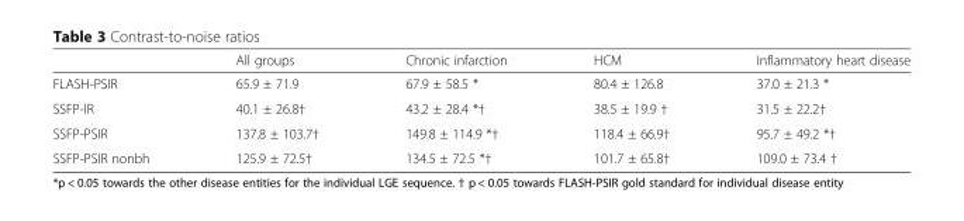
<table><thead><tr><td></td><td>All groups</td><td>Chronic infarction</td><td>HCM</td><td>Inflammatory heart disease</td></tr></thead><tbody><tr><td>FLASH-PSIR</td><td>65.9 ± 71.9</td><td>67.9 ± 58.5 *</td><td>80.4 ± 126.8</td><td>37.0 ± 21.3 *</td></tr><tr><td>SSFP-IR</td><td>40.1 ± 26.8†</td><td>43.2 ± 28.4 *†</td><td>38.5 ± 19.9 †</td><td>31.5 ± 22.2†</td></tr><tr><td>SSFP-PSIR</td><td>137.8 ± 103.7†</td><td>149.8 ± 114.9 *†</td><td>118.4 ± 66.9†</td><td>95.7 ± 49.2 *†</td></tr><tr><td>SSFP-PSIR nonbh</td><td>125.9 ± 72.5†</td><td>134.5 ± 72.5 *†</td><td>101.7 ± 65.8†</td><td>109.0 ± 73.4 †</td></tr></tbody></table>